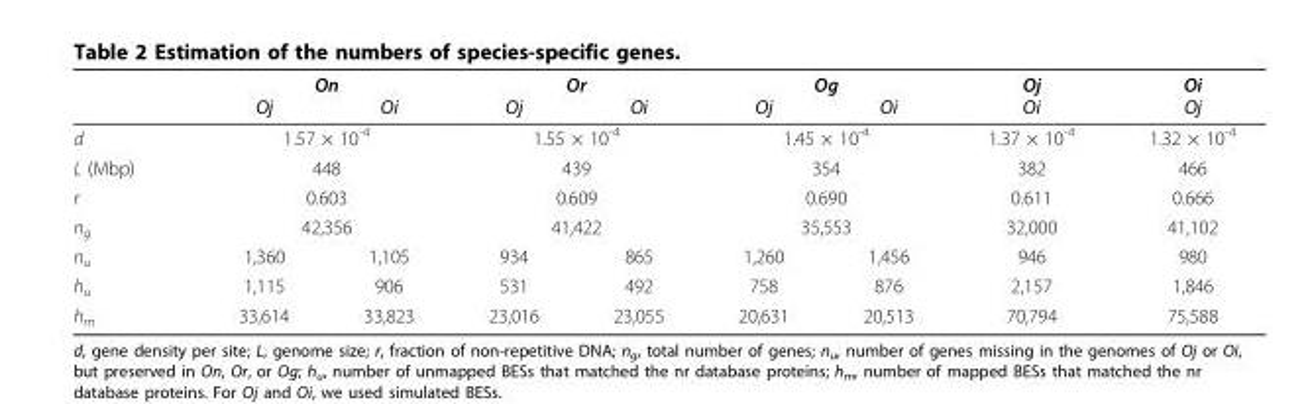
<table><thead><tr><td rowspan="2"></td><td colspan="2">On</td><td colspan="2">Or</td><td colspan="2">Og</td><td rowspan="2">Oj Oi</td><td rowspan="2">Oi Oj</td></tr><tr><td>Oj</td><td>Oi</td><td>Oj</td><td>Oi</td><td>Oj</td><td>Oi</td></tr></thead><tbody><tr><td>d</td><td colspan="2">1.57 × 10<sup>-4</sup></td><td colspan="2">1.55 × 10<sup>-4</sup></td><td colspan="2">1.45 × 10<sup>-4</sup></td><td>1.37 × 10<sup>-4</sup></td><td>1.32 × 10<sup>-4</sup></td></tr><tr><td>L (Mbp)</td><td colspan="2">448</td><td colspan="2">439</td><td colspan="2">354</td><td>382</td><td>466</td></tr><tr><td>r</td><td colspan="2">0.603</td><td colspan="2">0.609</td><td colspan="2">0.690</td><td>0.611</td><td>0.666</td></tr><tr><td>n<sub>g</sub></td><td colspan="2">42,356</td><td colspan="2">41,422</td><td colspan="2">35,553</td><td>32,000</td><td>41,102</td></tr><tr><td>n<sub>u</sub></td><td>1,360</td><td>1,105</td><td>934</td><td>865</td><td>1,260</td><td>1,456</td><td>946</td><td>980</td></tr><tr><td>h<sub>u</sub></td><td>1,115</td><td>906</td><td>531</td><td>492</td><td>758</td><td>876</td><td>2,157</td><td>1,846</td></tr><tr><td>h<sub>m</sub></td><td>33,614</td><td>33,823</td><td>23,016</td><td>23,055</td><td>20,631</td><td>20,513</td><td>70,794</td><td>75,588</td></tr></tbody></table>